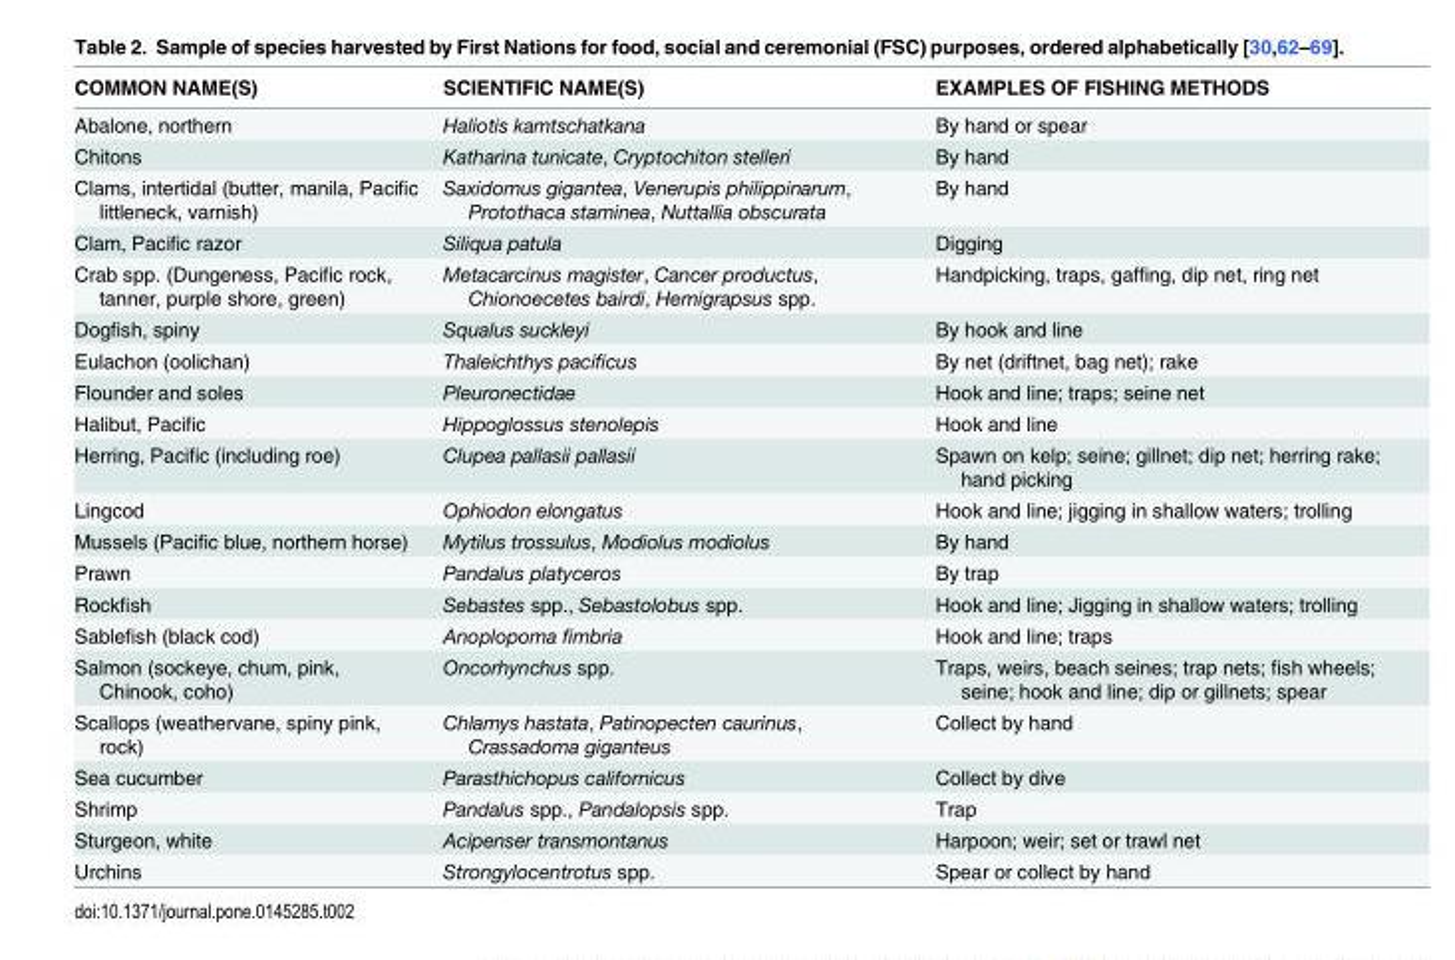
<table><thead><tr><td>COMMON NAME(S)</td><td>SCIENTIFIC NAME(S)</td><td>EXAMPLES OF FISHING METHODS</td></tr></thead><tbody><tr><td>Abalone, northern</td><td>Haliotis kamtschatkana</td><td>By hand or spear</td></tr><tr><td>Chitons</td><td>Katharina tunicate, Cryptochiton stelleri</td><td>By hand</td></tr><tr><td>Clams, intertidal (butter, manila, Pacific littleneck, varnish)</td><td>Saxidomus gigantea, Venerupis philippinarum, Protothaca staminea, Nuttallia obscurata</td><td>By hand</td></tr><tr><td>Clam, Pacific razor</td><td>Siliqua patula</td><td>Digging</td></tr><tr><td>Crab spp. (Dungeness, Pacific rock, tanner, purple shore, green)</td><td>Metacarcinus magister, Cancer productus, Chionoecetes bairdi, Hemigrapsus spp.</td><td>Handpicking, traps, gaffing, dip net, ring net</td></tr><tr><td>Dogfish, spiny</td><td>Squalus suckleyi</td><td>By hook and line</td></tr><tr><td>Eulachon (oolichan)</td><td>Thaleichthys pacificus</td><td>By net (driftnet, bag net); rake</td></tr><tr><td>Flounder and soles</td><td>Pleuronectidae</td><td>Hook and line; traps; seine net</td></tr><tr><td>Halibut, Pacific</td><td>Hippoglossus stenolepis</td><td>Hook and line</td></tr><tr><td>Herring, Pacific (including roe)</td><td>Clupea pallasii pallasii</td><td>Spawn on kelp; seine; gillnet; dip net; herring rake; hand picking</td></tr><tr><td>Lingcod</td><td>Ophiodon elongatus</td><td>Hook and line; jigging in shallow waters; trolling</td></tr><tr><td>Mussels (Pacific blue, northern horse)</td><td>Mytilus trossulus, Modiolus modiolus</td><td>By hand</td></tr><tr><td>Prawn</td><td>Pandalus platyceros</td><td>By trap</td></tr><tr><td>Rockfish</td><td>Sebastes spp., Sebastolobus spp.</td><td>Hook and line; Jigging in shallow waters; trolling</td></tr><tr><td>Sablefish (black cod)</td><td>Anoplopoma fimbria</td><td>Hook and line; traps</td></tr><tr><td>Salmon (sockeye, chum, pink, Chinook, coho)</td><td>Oncorhynchus spp.</td><td>Traps, weirs, beach seines; trap nets; fish wheels; seine; hook and line; dip or gillnets; spear</td></tr><tr><td>Scallops (weathervane, spiny pink, rock)</td><td>Chlamys hastata, Patinopecten caurinus, Crassadoma giganteus</td><td>Collect by hand</td></tr><tr><td>Sea cucumber</td><td>Parasthichopus californicus</td><td>Collect by dive</td></tr><tr><td>Shrimp</td><td>Pandalus spp., Pandalopsis spp.</td><td>Trap</td></tr><tr><td>Sturgeon, white</td><td>Acipenser transmontanus</td><td>Harpoon; weir; set or trawl net</td></tr><tr><td>Urchins</td><td>Strongylocentrotus spp.</td><td>Spear or collect by hand</td></tr></tbody></table>